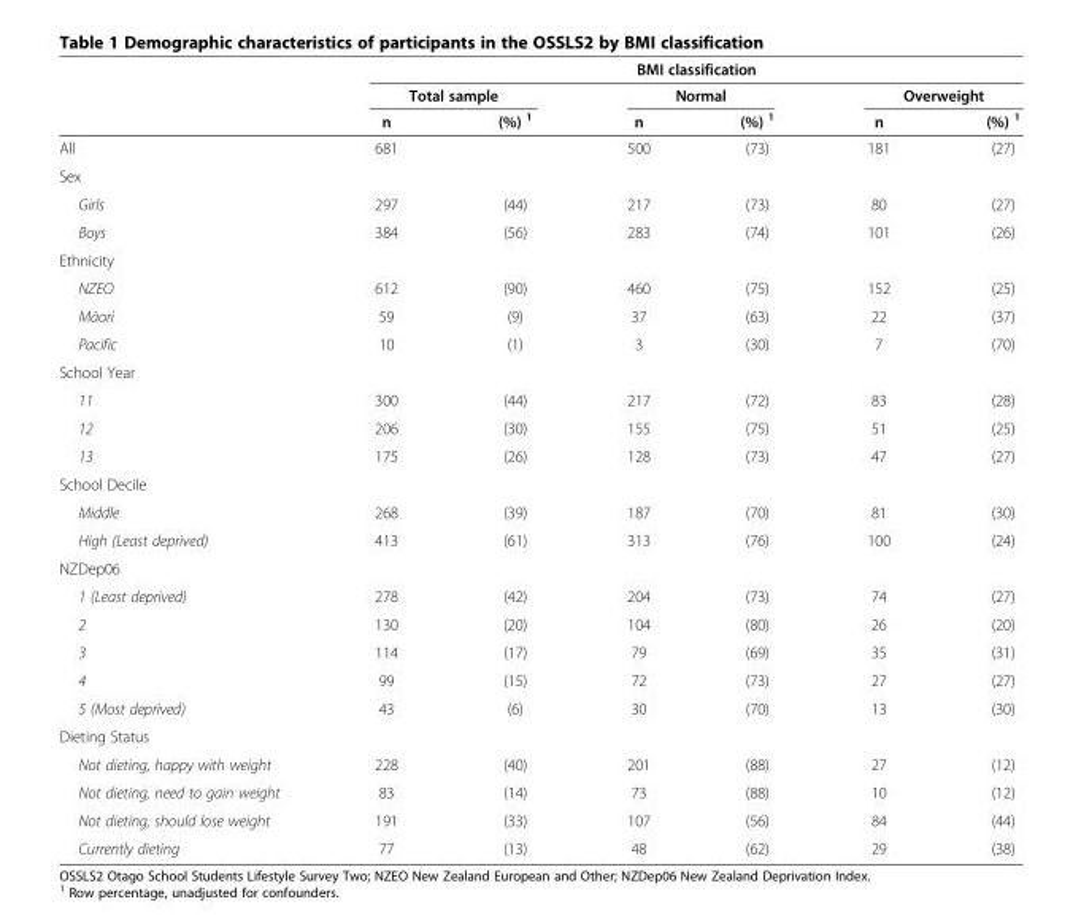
<table><thead><tr><td rowspan="3"></td><td colspan="6">BMI classification</td></tr><tr><td colspan="2">Total sample</td><td colspan="2">Normal</td><td colspan="2">Overweight</td></tr><tr><td>n</td><td>(%) <sup>1</sup></td><td>n</td><td>(%) <sup>1</sup></td><td>n</td><td>(%) <sup>1</sup></td></tr></thead><tbody><tr><td>All</td><td>681</td><td></td><td>500</td><td>(73)</td><td>181</td><td>(27)</td></tr><tr><td colspan="7">Sex</td></tr><tr><td>Girls</td><td>297</td><td>(44)</td><td>217</td><td>(73)</td><td>80</td><td>(27)</td></tr><tr><td>Boys</td><td>384</td><td>(56)</td><td>283</td><td>(74)</td><td>101</td><td>(26)</td></tr><tr><td colspan="7">Ethnicity</td></tr><tr><td>NZEO</td><td>612</td><td>(90)</td><td>460</td><td>(75)</td><td>152</td><td>(25)</td></tr><tr><td>Māori</td><td>59</td><td>(9)</td><td>37</td><td>(63)</td><td>22</td><td>(37)</td></tr><tr><td>Pacific</td><td>10</td><td>(1)</td><td>3</td><td>(30)</td><td>7</td><td>(70)</td></tr><tr><td colspan="7">School Year</td></tr><tr><td>11</td><td>300</td><td>(44)</td><td>217</td><td>(72)</td><td>83</td><td>(28)</td></tr><tr><td>12</td><td>206</td><td>(30)</td><td>155</td><td>(75)</td><td>51</td><td>(25)</td></tr><tr><td>13</td><td>175</td><td>(26)</td><td>128</td><td>(73)</td><td>47</td><td>(27)</td></tr><tr><td colspan="7">School Decile</td></tr><tr><td>Middle</td><td>268</td><td>(39)</td><td>187</td><td>(70)</td><td>81</td><td>(30)</td></tr><tr><td>High (Least deprived)</td><td>413</td><td>(61)</td><td>313</td><td>(76)</td><td>100</td><td>(24)</td></tr><tr><td colspan="7">NZDep06</td></tr><tr><td>1 (Least deprived)</td><td>278</td><td>(42)</td><td>204</td><td>(73)</td><td>74</td><td>(27)</td></tr><tr><td>2</td><td>130</td><td>(20)</td><td>104</td><td>(80)</td><td>26</td><td>(20)</td></tr><tr><td>3</td><td>114</td><td>(17)</td><td>79</td><td>(69)</td><td>35</td><td>(31)</td></tr><tr><td>4</td><td>99</td><td>(15)</td><td>72</td><td>(73)</td><td>27</td><td>(27)</td></tr><tr><td>5 (Most deprived)</td><td>43</td><td>(6)</td><td>30</td><td>(70)</td><td>13</td><td>(30)</td></tr><tr><td colspan="7">Dieting Status</td></tr><tr><td>Not dieting, happy with weight</td><td>228</td><td>(40)</td><td>201</td><td>(88)</td><td>27</td><td>(12)</td></tr><tr><td>Not dieting, need to gain weight</td><td>83</td><td>(14)</td><td>73</td><td>(88)</td><td>10</td><td>(12)</td></tr><tr><td>Not dieting, should lose weight</td><td>191</td><td>(33)</td><td>107</td><td>(56)</td><td>84</td><td>(44)</td></tr><tr><td>Currently dieting</td><td>77</td><td>(13)</td><td>48</td><td>(62)</td><td>29</td><td>(38)</td></tr></tbody></table>